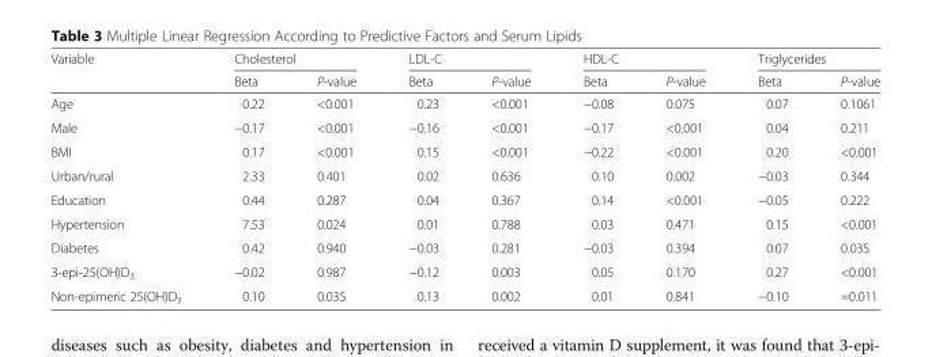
<table><thead><tr><td rowspan="2">Variable</td><td colspan="2">Cholesterol</td><td colspan="2">LDL-C</td><td colspan="2">HDL-C</td><td colspan="2">Triglycerides</td></tr><tr><td>Beta</td><td>P-value</td><td>Beta</td><td>P-value</td><td>Beta</td><td>P-value</td><td>Beta</td><td>P-value</td></tr></thead><tbody><tr><td>Age</td><td>0.22</td><td>&lt;0.001</td><td>0.23</td><td>&lt;0.001</td><td>−0.08</td><td>0.075</td><td>0.07</td><td>0.1061</td></tr><tr><td>Male</td><td>−0.17</td><td>&lt;0.001</td><td>−0.16</td><td>&lt;0.001</td><td>−0.17</td><td>&lt;0.001</td><td>0.04</td><td>0.211</td></tr><tr><td>BMI</td><td>0.17</td><td>&lt;0.001</td><td>0.15</td><td>&lt;0.001</td><td>−0.22</td><td>&lt;0.001</td><td>0.20</td><td>&lt;0.001</td></tr><tr><td>Urban/rural</td><td>2.33</td><td>0.401</td><td>0.02</td><td>0.636</td><td>0.10</td><td>0.002</td><td>−0.03</td><td>0.344</td></tr><tr><td>Education</td><td>0.44</td><td>0.287</td><td>0.04</td><td>0.367</td><td>0.14</td><td>&lt;0.001</td><td>−0.05</td><td>0.222</td></tr><tr><td>Hypertension</td><td>7.53</td><td>0.024</td><td>0.01</td><td>0.788</td><td>0.03</td><td>0.471</td><td>0.15</td><td>&lt;0.001</td></tr><tr><td>Diabetes</td><td>0.42</td><td>0.940</td><td>−0.03</td><td>0.281</td><td>−0.03</td><td>0.394</td><td>0.07</td><td>0.035</td></tr><tr><td>3-epi-25(OH)D<sub>3</sub></td><td>−0.02</td><td>0.987</td><td>−0.12</td><td>0.003</td><td>0.05</td><td>0.170</td><td>0.27</td><td>&lt;0.001</td></tr><tr><td>Non-epimeric 25(OH)D<sub>3</sub></td><td>0.10</td><td>0.035</td><td>0.13</td><td>0.002</td><td>0.01</td><td>0.841</td><td>−0.10</td><td>=0.011</td></tr></tbody></table>